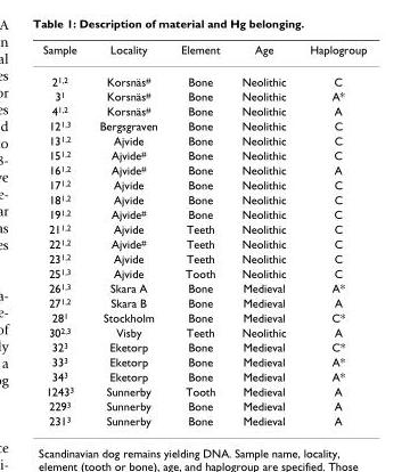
<table><thead><tr><td>Sample</td><td>Locality</td><td>Element</td><td>Age</td><td>Haplogroup</td></tr></thead><tbody><tr><td>2<sup>1,2</sup></td><td>Korsnäs<sup>#</sup></td><td>Bone</td><td>Neolithic</td><td>C</td></tr><tr><td>3<sup>1</sup></td><td>Korsnäs<sup>#</sup></td><td>Bone</td><td>Neolithic</td><td>A*</td></tr><tr><td>4<sup>1,2</sup></td><td>Korsnäs<sup>#</sup></td><td>Bone</td><td>Neolithic</td><td>A</td></tr><tr><td>12<sup>1,3</sup></td><td>Bergsgraven</td><td>Bone</td><td>Neolithic</td><td>C</td></tr><tr><td>13<sup>1,2</sup></td><td>Ajvide</td><td>Bone</td><td>Neolithic</td><td>C</td></tr><tr><td>15<sup>1,2</sup></td><td>Ajvide<sup>#</sup></td><td>Bone</td><td>Neolithic</td><td>C</td></tr><tr><td>16<sup>1,2</sup></td><td>Ajvide<sup>#</sup></td><td>Bone</td><td>Neolithic</td><td>A</td></tr><tr><td>17<sup>1,2</sup></td><td>Ajvide</td><td>Bone</td><td>Neolithic</td><td>C</td></tr><tr><td>18<sup>1,2</sup></td><td>Ajvide</td><td>Bone</td><td>Neolithic</td><td>C</td></tr><tr><td>19<sup>1,2</sup></td><td>Ajvide<sup>#</sup></td><td>Bone</td><td>Neolithic</td><td>C</td></tr><tr><td>21<sup>1,2</sup></td><td>Ajvide</td><td>Teeth</td><td>Neolithic</td><td>C</td></tr><tr><td>22<sup>1,2</sup></td><td>Ajvide<sup>#</sup></td><td>Teeth</td><td>Neolithic</td><td>C</td></tr><tr><td>23<sup>1,2</sup></td><td>Ajvide</td><td>Teeth</td><td>Neolithic</td><td>C</td></tr><tr><td>25<sup>1,3</sup></td><td>Ajvide</td><td>Tooth</td><td>Neolithic</td><td>C</td></tr><tr><td>26<sup>1,3</sup></td><td>Skara A</td><td>Bone</td><td>Medieval</td><td>A*</td></tr><tr><td>27<sup>1,2</sup></td><td>Skara B</td><td>Bone</td><td>Medieval</td><td>A</td></tr><tr><td>28<sup>1</sup></td><td>Stockholm</td><td>Bone</td><td>Medieval</td><td>C*</td></tr><tr><td>30<sup>2,3</sup></td><td>Visby</td><td>Teeth</td><td>Neolithic</td><td>A</td></tr><tr><td>32<sup>3</sup></td><td>Eketorp</td><td>Bone</td><td>Medieval</td><td>C*</td></tr><tr><td>33<sup>3</sup></td><td>Eketorp</td><td>Bone</td><td>Medieval</td><td>A*</td></tr><tr><td>34<sup>3</sup></td><td>Eketorp</td><td>Bone</td><td>Medieval</td><td>A*</td></tr><tr><td>1243<sup>3</sup></td><td>Sunnerby</td><td>Tooth</td><td>Medieval</td><td>A</td></tr><tr><td>229<sup>3</sup></td><td>Sunnerby</td><td>Bone</td><td>Medieval</td><td>A</td></tr><tr><td>231<sup>3</sup></td><td>Sunnerby</td><td>Bone</td><td>Medieval</td><td>A</td></tr></tbody></table>